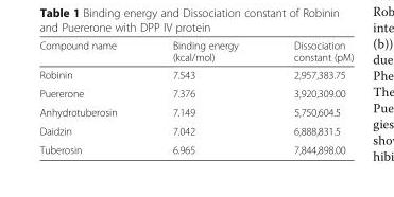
<table><thead><tr><td>Compound name</td><td>Binding energy (kcal/mol)</td><td>Dissociation constant (pM)</td></tr></thead><tbody><tr><td>Robinin</td><td>7.543</td><td>2,957,383.75</td></tr><tr><td>Puererone</td><td>7.376</td><td>3,920,309.00</td></tr><tr><td>Anhydrotuberosin</td><td>7.149</td><td>5,750,604.5</td></tr><tr><td>Daidzin</td><td>7.042</td><td>6,888,831.5</td></tr><tr><td>Tuberosin</td><td>6.965</td><td>7,844,898.00</td></tr></tbody></table>